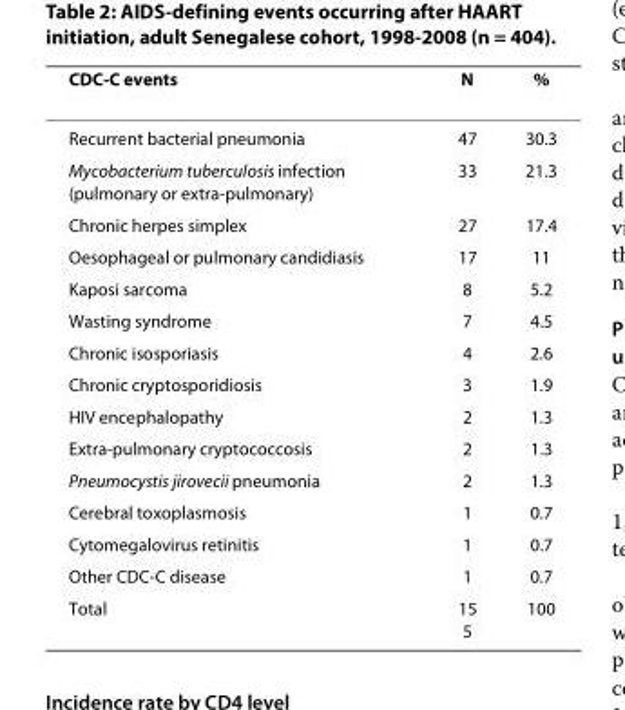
<table><thead><tr><td>CDC-C events</td><td>N</td><td>%</td></tr></thead><tbody><tr><td>Recurrent bacterial pneumonia</td><td>47</td><td>30.3</td></tr><tr><td>Mycobacterium tuberculosis infection (pulmonary or extra-pulmonary)</td><td>33</td><td>21.3</td></tr><tr><td>Chronic herpes simplex</td><td>27</td><td>17.4</td></tr><tr><td>Oesophageal or pulmonary candidiasis</td><td>17</td><td>11</td></tr><tr><td>Kaposi sarcoma</td><td>8</td><td>5.2</td></tr><tr><td>Wasting syndrome</td><td>7</td><td>4.5</td></tr><tr><td>Chronic isosporiasis</td><td>4</td><td>2.6</td></tr><tr><td>Chronic cryptosporidiosis</td><td>3</td><td>1.9</td></tr><tr><td>HIV encephalopathy</td><td>2</td><td>1.3</td></tr><tr><td>Extra-pulmonary cryptococcosis</td><td>2</td><td>1.3</td></tr><tr><td>Pneumocystis jirovecii pneumonia</td><td>2</td><td>1.3</td></tr><tr><td>Cerebral toxoplasmosis</td><td>1</td><td>0.7</td></tr><tr><td>Cytomegalovirus retinitis</td><td>1</td><td>0.7</td></tr><tr><td>Other CDC-C disease</td><td>1</td><td>0.7</td></tr><tr><td>Total</td><td>15 5</td><td>100</td></tr></tbody></table>